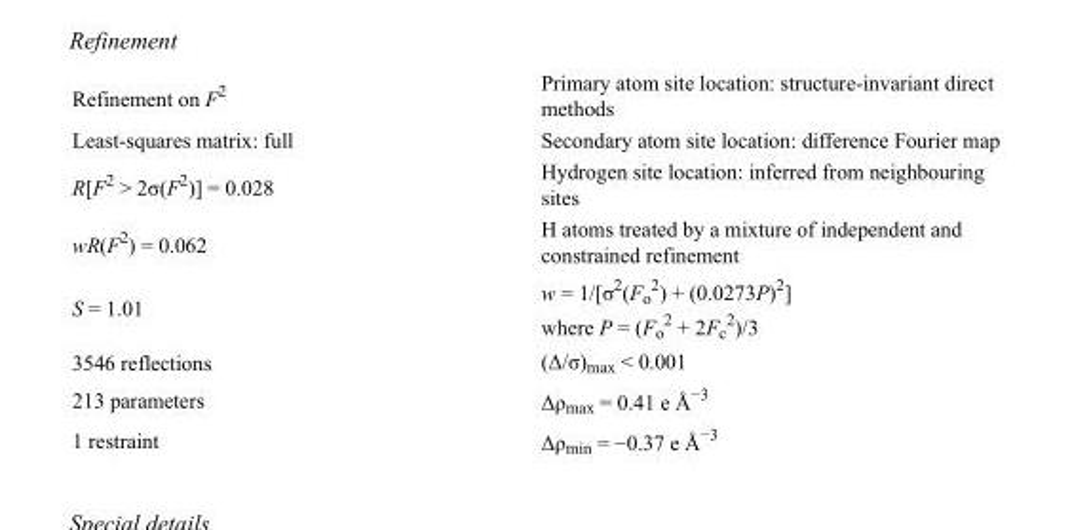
<table><tbody><tr><td>Refinement on F<sup>2</sup></td><td>Primary atom site location: structure-invariant direct methods</td></tr><tr><td>Least-squares matrix: full</td><td>Secondary atom site location: difference Fourier map</td></tr><tr><td>R[F<sup>2</sup> &gt; 2σ(F<sup>2</sup>)] = 0.028</td><td>Hydrogen site location: inferred from neighbouring sites</td></tr><tr><td>wR(F<sup>2</sup>) = 0.062</td><td>H atoms treated by a mixture of independent and constrained refinement</td></tr><tr><td>S = 1.01</td><td>w = 1/[σ<sup>2</sup>(F<sub>o</sub> <sup>2</sup>) + (0.0273P)<sup>2</sup>] where P = (F<sub>o</sub> <sup>2</sup> + 2F<sub>c</sub> <sup>2</sup>)/3</td></tr><tr><td>3546 reflections</td><td>(Δ/σ)<sub>max</sub> &lt; 0.001</td></tr><tr><td>213 parameters</td><td>Δρ<sub>max</sub> = 0.41 e Å<sup>−3</sup></td></tr><tr><td>1 restraint</td><td>Δρ<sub>min</sub> = −0.37 e Å<sup>−3</sup></td></tr></tbody></table>